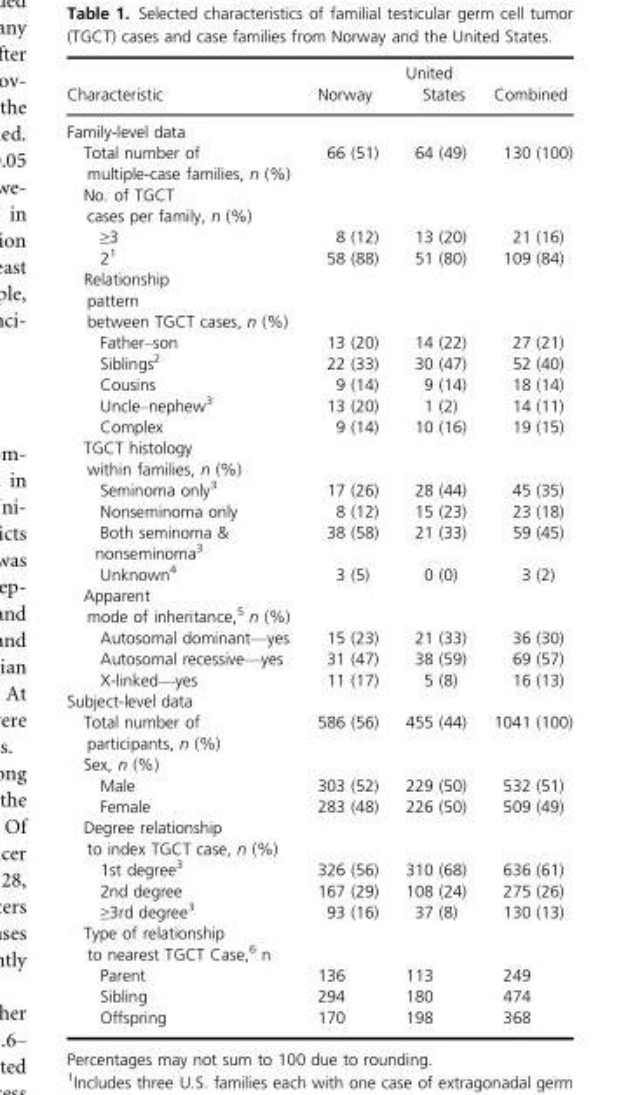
<table><thead><tr><td>Characteristic</td><td>Norway</td><td>United States</td><td>Combined</td></tr></thead><tbody><tr><td colspan="4">Family-level data</td></tr><tr><td>Total number of multiple-case families, n (%)</td><td>66 (51)</td><td>64 (49)</td><td>130 (100)</td></tr><tr><td colspan="4">No. of TGCT cases per family, n (%)</td></tr><tr><td>≥3</td><td>8 (12)</td><td>13 (20)</td><td>21 (16)</td></tr><tr><td>2<sup>1</sup></td><td>58 (88)</td><td>51 (80)</td><td>109 (84)</td></tr><tr><td colspan="4">Relationship pattern between TGCT cases, n (%)</td></tr><tr><td>Father–son</td><td>13 (20)</td><td>14 (22)</td><td>27 (21)</td></tr><tr><td>Siblings<sup>2</sup></td><td>22 (33)</td><td>30 (47)</td><td>52 (40)</td></tr><tr><td>Cousins</td><td>9 (14)</td><td>9 (14)</td><td>18 (14)</td></tr><tr><td>Uncle–nephew<sup>3</sup></td><td>13 (20)</td><td>1 (2)</td><td>14 (11)</td></tr><tr><td>Complex</td><td>9 (14)</td><td>10 (16)</td><td>19 (15)</td></tr><tr><td colspan="4">TGCT histology within families, n (%)</td></tr><tr><td>Seminoma only<sup>3</sup></td><td>17 (26)</td><td>28 (44)</td><td>45 (35)</td></tr><tr><td>Nonseminoma only</td><td>8 (12)</td><td>15 (23)</td><td>23 (18)</td></tr><tr><td>Both seminoma &amp; nonseminoma<sup>3</sup></td><td>38 (58)</td><td>21 (33)</td><td>59 (45)</td></tr><tr><td>Unknown<sup>4</sup></td><td>3 (5)</td><td>0 (0)</td><td>3 (2)</td></tr><tr><td colspan="4">Apparent mode of inheritance,<sup>5</sup> n (%)</td></tr><tr><td>Autosomal dominant—yes</td><td>15 (23)</td><td>21 (33)</td><td>36 (30)</td></tr><tr><td>Autosomal recessive—yes</td><td>31 (47)</td><td>38 (59)</td><td>69 (57)</td></tr><tr><td>X-linked—yes</td><td>11 (17)</td><td>5 (8)</td><td>16 (13)</td></tr><tr><td colspan="4">Subject-level data</td></tr><tr><td>Total number of participants, n (%)</td><td>586 (56)</td><td>455 (44)</td><td>1041 (100)</td></tr><tr><td colspan="4">Sex, n (%)</td></tr><tr><td>Male</td><td>303 (52)</td><td>229 (50)</td><td>532 (51)</td></tr><tr><td>Female</td><td>283 (48)</td><td>226 (50)</td><td>509 (49)</td></tr><tr><td colspan="4">Degree relationship to index TGCT case, n (%)</td></tr><tr><td>1st degree<sup>3</sup></td><td>326 (56)</td><td>310 (68)</td><td>636 (61)</td></tr><tr><td>2nd degree</td><td>167 (29)</td><td>108 (24)</td><td>275 (26)</td></tr><tr><td>≥3rd degree<sup>3</sup></td><td>93 (16)</td><td>37 (8)</td><td>130 (13)</td></tr><tr><td colspan="4">Type of relationship to nearest TGCT Case,<sup>6</sup> n</td></tr><tr><td>Parent</td><td>136</td><td>113</td><td>249</td></tr><tr><td>Sibling</td><td>294</td><td>180</td><td>474</td></tr><tr><td>Offspring</td><td>170</td><td>198</td><td>368</td></tr></tbody></table>